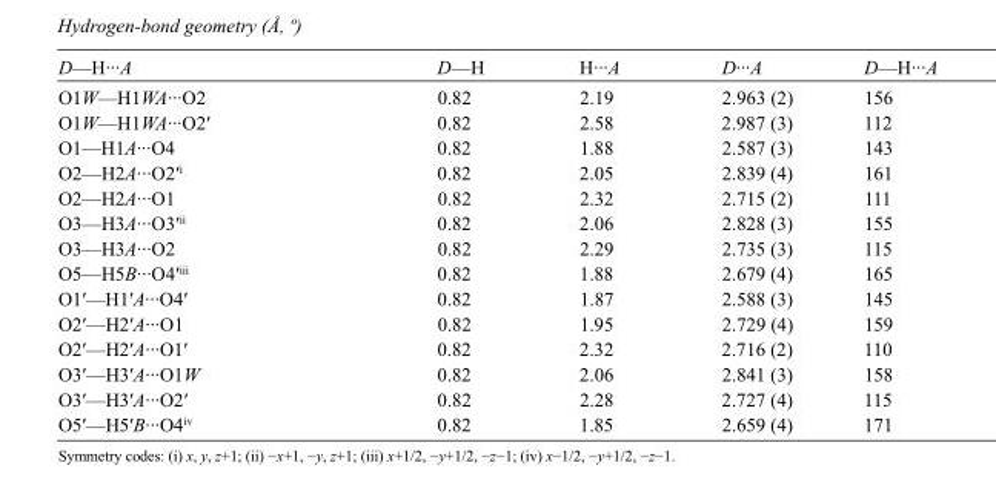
<table><tbody><tr><td>D—H···A</td><td>D—H</td><td>H···A</td><td>D···A</td><td>D—H···A</td></tr><tr><td>O1W—H1WA···O2</td><td>0.82</td><td>2.19</td><td>2.963 (2)</td><td>156</td></tr><tr><td>O1W—H1WA···O2′</td><td>0.82</td><td>2.58</td><td>2.987 (3)</td><td>112</td></tr><tr><td>O1—H1A···O4</td><td>0.82</td><td>1.88</td><td>2.587 (3)</td><td>143</td></tr><tr><td>O2—H2A···O2′<sup>i</sup></td><td>0.82</td><td>2.05</td><td>2.839 (4)</td><td>161</td></tr><tr><td>O2—H2A···O1</td><td>0.82</td><td>2.32</td><td>2.715 (2)</td><td>111</td></tr><tr><td>O3—H3A···O3′<sup>ii</sup></td><td>0.82</td><td>2.06</td><td>2.828 (3)</td><td>155</td></tr><tr><td>O3—H3A···O2</td><td>0.82</td><td>2.29</td><td>2.735 (3)</td><td>115</td></tr><tr><td>O5—H5B···O4′<sup>iii</sup></td><td>0.82</td><td>1.88</td><td>2.679 (4)</td><td>165</td></tr><tr><td>O1′—H1′A···O4′</td><td>0.82</td><td>1.87</td><td>2.588 (3)</td><td>145</td></tr><tr><td>O2′—H2′A···O1</td><td>0.82</td><td>1.95</td><td>2.729 (4)</td><td>159</td></tr><tr><td>O2′—H2′A···O1′</td><td>0.82</td><td>2.32</td><td>2.716 (2)</td><td>110</td></tr><tr><td>O3′—H3′A···O1W</td><td>0.82</td><td>2.06</td><td>2.841 (3)</td><td>158</td></tr><tr><td>O3′—H3′A···O2′</td><td>0.82</td><td>2.28</td><td>2.727 (4)</td><td>115</td></tr><tr><td>O5′—H5′B···O4<sup>iv</sup></td><td>0.82</td><td>1.85</td><td>2.659 (4)</td><td>171</td></tr></tbody></table>